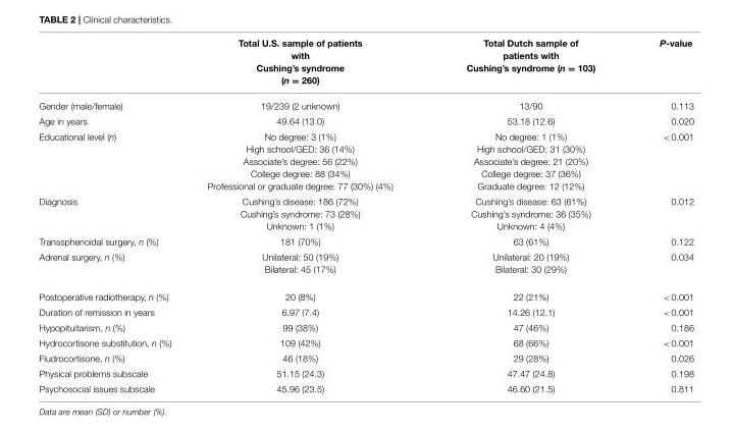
<table><thead><tr><td></td><td>Total U.S. sample of patients with Cushing’s syndrome (n = 260)</td><td>Total Dutch sample of patients with Cushing’s syndrome (n = 103)</td><td>P-value</td></tr></thead><tbody><tr><td>Gender (male/female)</td><td>19/239 (2 unknown)</td><td>13/90</td><td>0.113</td></tr><tr><td>Age in years</td><td>49.64 (13.0)</td><td>53.18 (12.6)</td><td>0.020</td></tr><tr><td>Educational level (n)</td><td>No degree: 3 (1%) High school/GED: 36 (14%) Associate’s degree: 56 (22%) College degree: 88 (34%) Professional or graduate degree: 77 (30%) (4%)</td><td>No degree: 1 (1%) High school/GED: 31 (30%) Associate’s degree: 21 (20%) College degree: 37 (36%) Graduate degree: 12 (12%)</td><td>&lt;0.001</td></tr><tr><td>Diagnosis</td><td>Cushing’s disease: 186 (72%) Cushing’s syndrome: 73 (28%) Unknown: 1 (1%)</td><td>Cushing’s disease: 63 (61%) Cushing’s syndrome: 36 (35%) Unknown: 4 (4%)</td><td>0.012</td></tr><tr><td>Transsphenoidal surgery, n (%)</td><td>181 (70%)</td><td>63 (61%)</td><td>0.122</td></tr><tr><td>Adrenal surgery, n (%)</td><td>Unilateral: 50 (19%) Bilateral: 45 (17%)</td><td>Unilateral: 20 (19%) Bilateral: 30 (29%)</td><td>0.034</td></tr><tr><td>Postoperative radiotherapy, n (%)</td><td>20 (8%)</td><td>22 (21%)</td><td>&lt;0.001</td></tr><tr><td>Duration of remission in years</td><td>6.97 (7.4)</td><td>14.26 (12.1)</td><td>&lt;0.001</td></tr><tr><td>Hypopituitarism, n (%)</td><td>99 (38%)</td><td>47 (46%)</td><td>0.186</td></tr><tr><td>Hydrocortisone substitution, n (%)</td><td>109 (42%)</td><td>68 (66%)</td><td>&lt;0.001</td></tr><tr><td>Fludrocortisone, n (%)</td><td>46 (18%)</td><td>29 (28%)</td><td>0.026</td></tr><tr><td>Physical problems subscale</td><td>51.15 (24.3)</td><td>47.47 (24.8)</td><td>0.198</td></tr><tr><td>Psychosocial issues subscale</td><td>45.96 (23.5)</td><td>46.60 (21.5)</td><td>0.811</td></tr></tbody></table>